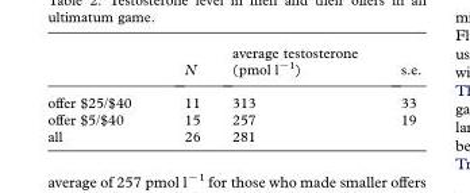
<table><thead><tr><td></td><td>N</td><td>average testosterone (pmol l<sup>−1</sup>)</td><td>s.e.</td></tr></thead><tbody><tr><td>offer $25/$40</td><td>11</td><td>313</td><td>33</td></tr><tr><td>offer $5/$40</td><td>15</td><td>257</td><td>19</td></tr><tr><td>all</td><td>26</td><td>281</td><td></td></tr></tbody></table>